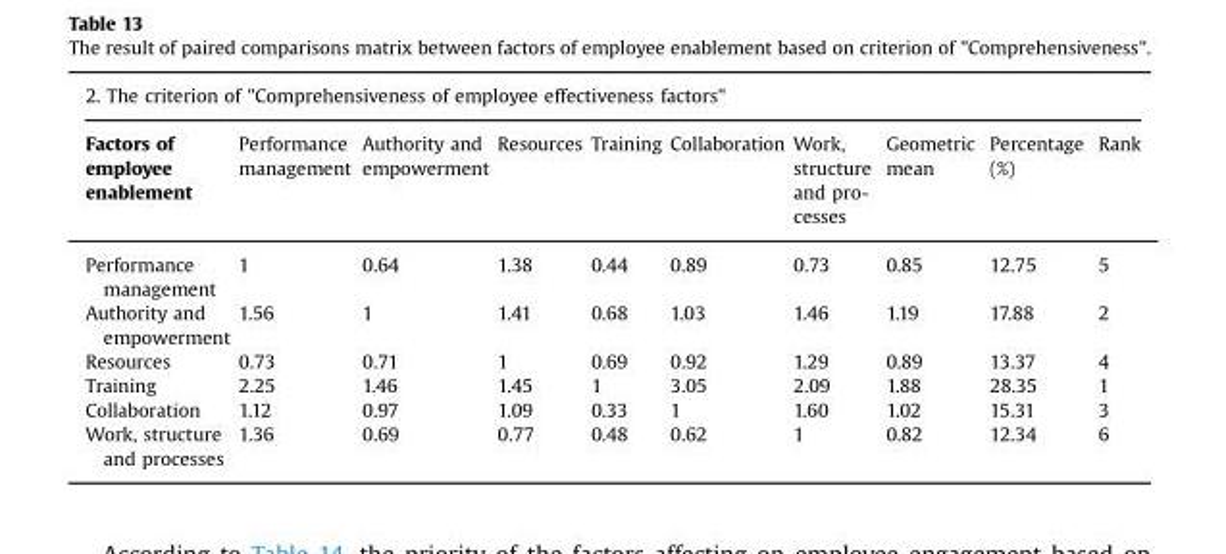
<table><thead><tr><td colspan="10">2. The criterion of &quot;Comprehensiveness of employee effectiveness factors&quot;</td></tr><tr><td>Factors of employee enablement</td><td>Performance management</td><td>Authority and empowerment</td><td>Resources</td><td>Training</td><td>Collaboration</td><td>Work, structure and pro- cesses</td><td>Geometric mean</td><td>Percentage (%)</td><td>Rank</td></tr></thead><tbody><tr><td>Performance management</td><td>1</td><td>0.64</td><td>1.38</td><td>0.44</td><td>0.89</td><td>0.73</td><td>0.85</td><td>12.75</td><td>5</td></tr><tr><td>Authority and empowerment</td><td>1.56</td><td>1</td><td>1.41</td><td>0.68</td><td>1.03</td><td>1.46</td><td>1.19</td><td>17.88</td><td>2</td></tr><tr><td>Resources</td><td>0.73</td><td>0.71</td><td>1</td><td>0.69</td><td>0.92</td><td>1.29</td><td>0.89</td><td>13.37</td><td>4</td></tr><tr><td>Training</td><td>2.25</td><td>1.46</td><td>1.45</td><td>1</td><td>3.05</td><td>2.09</td><td>1.88</td><td>28.35</td><td>1</td></tr><tr><td>Collaboration</td><td>1.12</td><td>0.97</td><td>1.09</td><td>0.33</td><td>1</td><td>1.60</td><td>1.02</td><td>15.31</td><td>3</td></tr><tr><td>Work, structure and processes</td><td>1.36</td><td>0.69</td><td>0.77</td><td>0.48</td><td>0.62</td><td>1</td><td>0.82</td><td>12.34</td><td>6</td></tr></tbody></table>